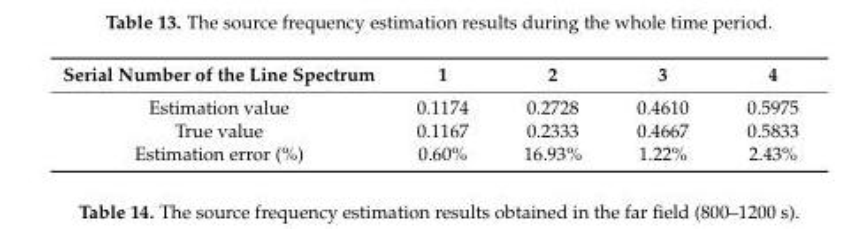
<table><thead><tr><td>Serial Number of the Line Spectrum</td><td>1</td><td>2</td><td>3</td><td>4</td></tr></thead><tbody><tr><td>Estimation value</td><td>0.1174</td><td>0.2728</td><td>0.4610</td><td>0.5975</td></tr><tr><td>True value</td><td>0.1167</td><td>0.2333</td><td>0.4667</td><td>0.5833</td></tr><tr><td>Estimation error (%)</td><td>0.60%</td><td>16.93%</td><td>1.22%</td><td>2.43%</td></tr></tbody></table>